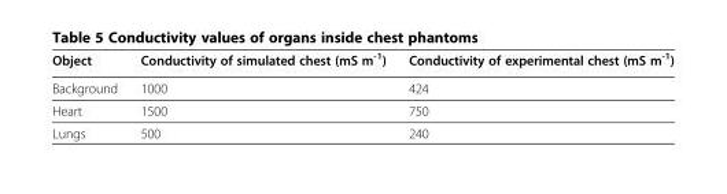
<table><thead><tr><td>Object</td><td>Conductivity of simulated chest (mS m<sup>-1</sup>)</td><td>Conductivity of experimental chest (mS m<sup>-1</sup>)</td></tr></thead><tbody><tr><td>Background</td><td>1000</td><td>424</td></tr><tr><td>Heart</td><td>1500</td><td>750</td></tr><tr><td>Lungs</td><td>500</td><td>240</td></tr></tbody></table>